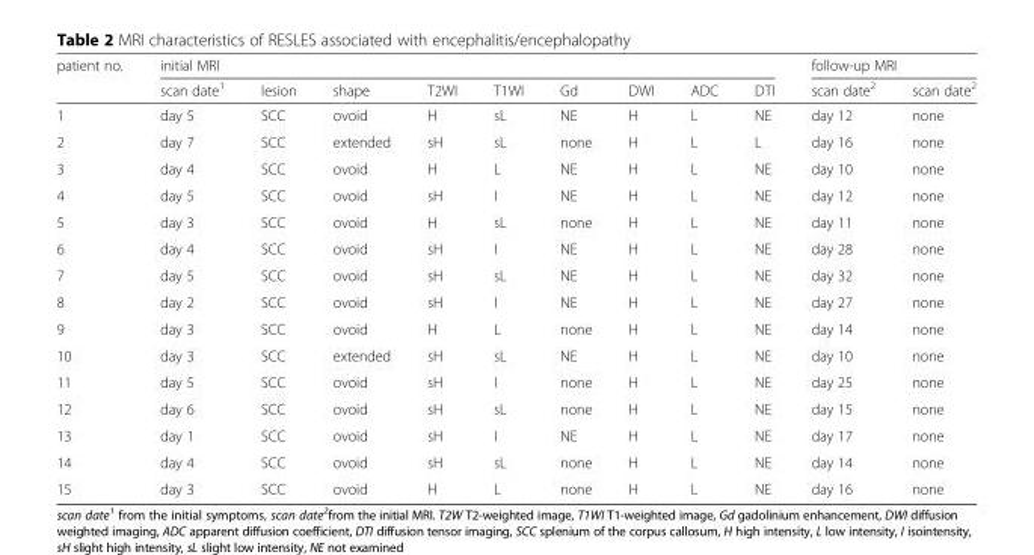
<table><thead><tr><td rowspan="2">patient no.</td><td colspan="9">initial MRI</td><td colspan="2">follow-up MRI</td></tr><tr><td>scan date<sup>1</sup></td><td>lesion</td><td>shape</td><td>T2WI</td><td>T1WI</td><td>Gd</td><td>DWI</td><td>ADC</td><td>DTI</td><td>scan date<sup>2</sup></td><td>scan date<sup>2</sup></td></tr></thead><tbody><tr><td>1</td><td>day 5</td><td>SCC</td><td>ovoid</td><td>H</td><td>sL</td><td>NE</td><td>H</td><td>L</td><td>NE</td><td>day 12</td><td>none</td></tr><tr><td>2</td><td>day 7</td><td>SCC</td><td>extended</td><td>sH</td><td>sL</td><td>none</td><td>H</td><td>L</td><td>L</td><td>day 16</td><td>none</td></tr><tr><td>3</td><td>day 4</td><td>SCC</td><td>ovoid</td><td>H</td><td>L</td><td>NE</td><td>H</td><td>L</td><td>NE</td><td>day 10</td><td>none</td></tr><tr><td>4</td><td>day 5</td><td>SCC</td><td>ovoid</td><td>sH</td><td>I</td><td>NE</td><td>H</td><td>L</td><td>NE</td><td>day 12</td><td>none</td></tr><tr><td>5</td><td>day 3</td><td>SCC</td><td>ovoid</td><td>H</td><td>sL</td><td>none</td><td>H</td><td>L</td><td>NE</td><td>day 11</td><td>none</td></tr><tr><td>6</td><td>day 4</td><td>SCC</td><td>ovoid</td><td>sH</td><td>I</td><td>NE</td><td>H</td><td>L</td><td>NE</td><td>day 28</td><td>none</td></tr><tr><td>7</td><td>day 5</td><td>SCC</td><td>ovoid</td><td>sH</td><td>sL</td><td>NE</td><td>H</td><td>L</td><td>NE</td><td>day 32</td><td>none</td></tr><tr><td>8</td><td>day 2</td><td>SCC</td><td>ovoid</td><td>sH</td><td>I</td><td>NE</td><td>H</td><td>L</td><td>NE</td><td>day 27</td><td>none</td></tr><tr><td>9</td><td>day 3</td><td>SCC</td><td>ovoid</td><td>H</td><td>L</td><td>none</td><td>H</td><td>L</td><td>NE</td><td>day 14</td><td>none</td></tr><tr><td>10</td><td>day 3</td><td>SCC</td><td>extended</td><td>sH</td><td>sL</td><td>NE</td><td>H</td><td>L</td><td>NE</td><td>day 10</td><td>none</td></tr><tr><td>11</td><td>day 5</td><td>SCC</td><td>ovoid</td><td>sH</td><td>I</td><td>none</td><td>H</td><td>L</td><td>NE</td><td>day 25</td><td>none</td></tr><tr><td>12</td><td>day 6</td><td>SCC</td><td>ovoid</td><td>sH</td><td>sL</td><td>none</td><td>H</td><td>L</td><td>NE</td><td>day 15</td><td>none</td></tr><tr><td>13</td><td>day 1</td><td>SCC</td><td>ovoid</td><td>sH</td><td>I</td><td>NE</td><td>H</td><td>L</td><td>NE</td><td>day 17</td><td>none</td></tr><tr><td>14</td><td>day 4</td><td>SCC</td><td>ovoid</td><td>sH</td><td>sL</td><td>none</td><td>H</td><td>L</td><td>NE</td><td>day 14</td><td>none</td></tr><tr><td>15</td><td>day 3</td><td>SCC</td><td>ovoid</td><td>H</td><td>L</td><td>none</td><td>H</td><td>L</td><td>NE</td><td>day 16</td><td>none</td></tr></tbody></table>